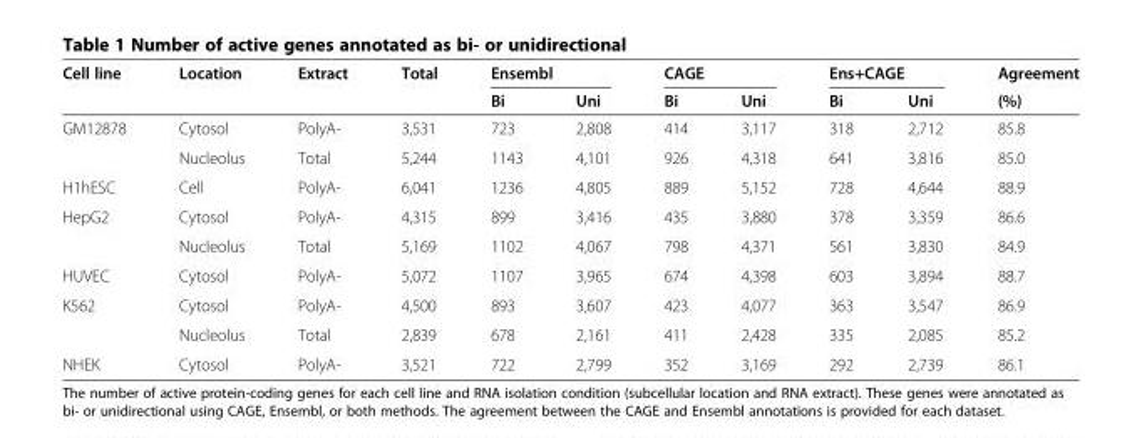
<table><thead><tr><td rowspan="2">Cell line</td><td rowspan="2">Location</td><td rowspan="2">Extract</td><td rowspan="2">Total</td><td colspan="2">Ensembl</td><td colspan="2">CAGE</td><td colspan="2">Ens+CAGE</td><td rowspan="2">Agreement (%)</td></tr><tr><td>Bi</td><td>Uni</td><td>Bi</td><td>Uni</td><td>Bi</td><td>Uni</td></tr></thead><tbody><tr><td rowspan="2">GM12878</td><td>Cytosol</td><td>PolyA-</td><td>3,531</td><td>723</td><td>2,808</td><td>414</td><td>3,117</td><td>318</td><td>2,712</td><td>85.8</td></tr><tr><td>Nucleolus</td><td>Total</td><td>5,244</td><td>1143</td><td>4,101</td><td>926</td><td>4,318</td><td>641</td><td>3,816</td><td>85.0</td></tr><tr><td>H1hESC</td><td>Cell</td><td>PolyA-</td><td>6,041</td><td>1236</td><td>4,805</td><td>889</td><td>5,152</td><td>728</td><td>4,644</td><td>88.9</td></tr><tr><td rowspan="2">HepG2</td><td>Cytosol</td><td>PolyA-</td><td>4,315</td><td>899</td><td>3,416</td><td>435</td><td>3,880</td><td>378</td><td>3,359</td><td>86.6</td></tr><tr><td>Nucleolus</td><td>Total</td><td>5,169</td><td>1102</td><td>4,067</td><td>798</td><td>4,371</td><td>561</td><td>3,830</td><td>84.9</td></tr><tr><td>HUVEC</td><td>Cytosol</td><td>PolyA-</td><td>5,072</td><td>1107</td><td>3,965</td><td>674</td><td>4,398</td><td>603</td><td>3,894</td><td>88.7</td></tr><tr><td rowspan="2">K562</td><td>Cytosol</td><td>PolyA-</td><td>4,500</td><td>893</td><td>3,607</td><td>423</td><td>4,077</td><td>363</td><td>3,547</td><td>86.9</td></tr><tr><td>Nucleolus</td><td>Total</td><td>2,839</td><td>678</td><td>2,161</td><td>411</td><td>2,428</td><td>335</td><td>2,085</td><td>85.2</td></tr><tr><td>NHEK</td><td>Cytosol</td><td>PolyA-</td><td>3,521</td><td>722</td><td>2,799</td><td>352</td><td>3,169</td><td>292</td><td>2,739</td><td>86.1</td></tr></tbody></table>